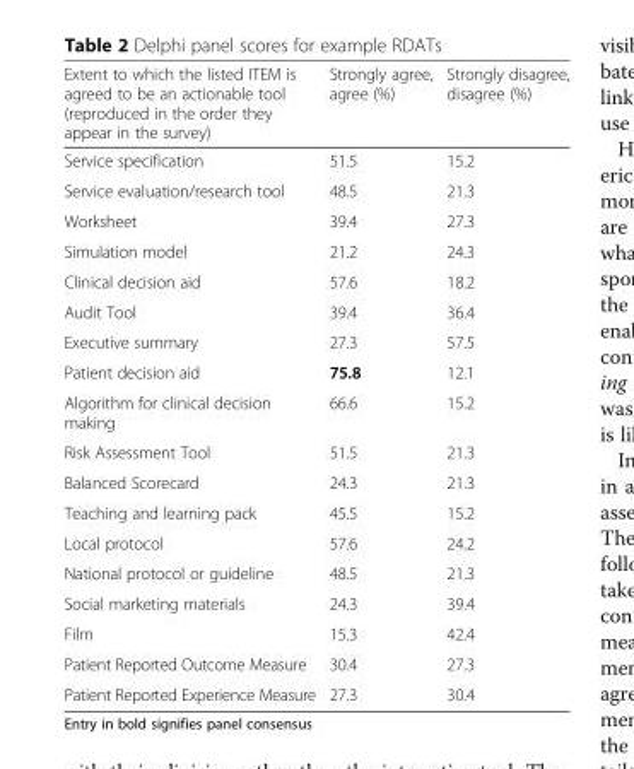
<table><thead><tr><td>Extent to which the listed ITEM is agreed to be an actionable tool (reproduced in the order they appear in the survey)</td><td>Strongly agree, agree (%)</td><td>Strongly disagree, disagree (%)</td></tr></thead><tbody><tr><td>Service specification</td><td>51.5</td><td>15.2</td></tr><tr><td>Service evaluation/research tool</td><td>48.5</td><td>21.3</td></tr><tr><td>Worksheet</td><td>39.4</td><td>27.3</td></tr><tr><td>Simulation model</td><td>21.2</td><td>24.3</td></tr><tr><td>Clinical decision aid</td><td>57.6</td><td>18.2</td></tr><tr><td>Audit Tool</td><td>39.4</td><td>36.4</td></tr><tr><td>Executive summary</td><td>27.3</td><td>57.5</td></tr><tr><td>Patient decision aid</td><td>75.8</td><td>12.1</td></tr><tr><td>Algorithm for clinical decision making</td><td>66.6</td><td>15.2</td></tr><tr><td>Risk Assessment Tool</td><td>51.5</td><td>21.3</td></tr><tr><td>Balanced Scorecard</td><td>24.3</td><td>21.3</td></tr><tr><td>Teaching and learning pack</td><td>45.5</td><td>15.2</td></tr><tr><td>Local protocol</td><td>57.6</td><td>24.2</td></tr><tr><td>National protocol or guideline</td><td>48.5</td><td>21.3</td></tr><tr><td>Social marketing materials</td><td>24.3</td><td>39.4</td></tr><tr><td>Film</td><td>15.3</td><td>42.4</td></tr><tr><td>Patient Reported Outcome Measure</td><td>30.4</td><td>27.3</td></tr><tr><td>Patient Reported Experience Measure</td><td>27.3</td><td>30.4</td></tr></tbody></table>